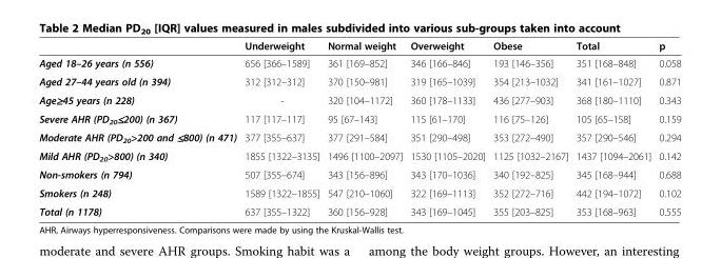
<table><thead><tr><td></td><td>Underweight</td><td>Normal weight</td><td>Overweight</td><td>Obese</td><td>Total</td><td>p</td></tr></thead><tbody><tr><td>Aged 18–26 years (n 556)</td><td>656 [366–1589]</td><td>361 [169–852]</td><td>346 [166–846]</td><td>193 [146–356]</td><td>351 [168–848]</td><td>0.058</td></tr><tr><td>Aged 27–44 years old (n 394)</td><td>312 [312–312]</td><td>370 [150–981]</td><td>319 [165–1039]</td><td>354 [213–1032]</td><td>341 [161–1027]</td><td>0.871</td></tr><tr><td>Age≥45 years (n 228)</td><td>-</td><td>320 [104–1172]</td><td>360 [178–1133]</td><td>436 [277–903]</td><td>368 [180–1110]</td><td>0.343</td></tr><tr><td>Severe AHR (PD<sub>20</sub>≤200) (n 367)</td><td>117 [117–117]</td><td>95 [67–143]</td><td>115 [61–170]</td><td>116 [75–126]</td><td>105 [65–158]</td><td>0.159</td></tr><tr><td>Moderate AHR (PD<sub>20</sub>&gt;200 and ≤800) (n 471)</td><td>377 [355–637]</td><td>377 [291–584]</td><td>351 [290–498]</td><td>353 [272–490]</td><td>357 [290–546]</td><td>0.294</td></tr><tr><td>Mild AHR (PD<sub>20</sub>&gt;800) (n 340)</td><td>1855 [1322–3135]</td><td>1496 [1100–2097]</td><td>1530 [1105–2020]</td><td>1125 [1032–2167]</td><td>1437 [1094–2061]</td><td>0.142</td></tr><tr><td>Non-smokers (n 794)</td><td>507 [355–674]</td><td>343 [156–896]</td><td>343 [170–1036]</td><td>340 [192–825]</td><td>345 [168–944]</td><td>0.688</td></tr><tr><td>Smokers (n 248)</td><td>1589 [1322–1855]</td><td>547 [210–1060]</td><td>322 [169–1113]</td><td>352 [272–716]</td><td>442 [194–1072]</td><td>0.102</td></tr><tr><td>Total (n 1178)</td><td>637 [355–1322]</td><td>360 [156–928]</td><td>343 [169–1045]</td><td>355 [203–825]</td><td>353 [168–963]</td><td>0.555</td></tr></tbody></table>